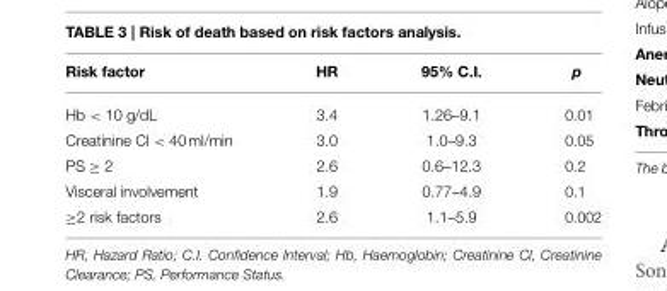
<table><thead><tr><td>Risk factor</td><td>HR</td><td>95% C.I.</td><td>p</td></tr></thead><tbody><tr><td>Hb &lt; 10 g/dL</td><td>3.4</td><td>1.26–9.1</td><td>0.01</td></tr><tr><td>Creatinine Cl &lt; 40 ml/min</td><td>3.0</td><td>1.0–9.3</td><td>0.05</td></tr><tr><td>PS ≥ 2</td><td>2.6</td><td>0.6–12.3</td><td>0.2</td></tr><tr><td>Visceral involvement</td><td>1.9</td><td>0.77–4.9</td><td>0.1</td></tr><tr><td>≥2 risk factors</td><td>2.6</td><td>1.1–5.9</td><td>0.002</td></tr></tbody></table>